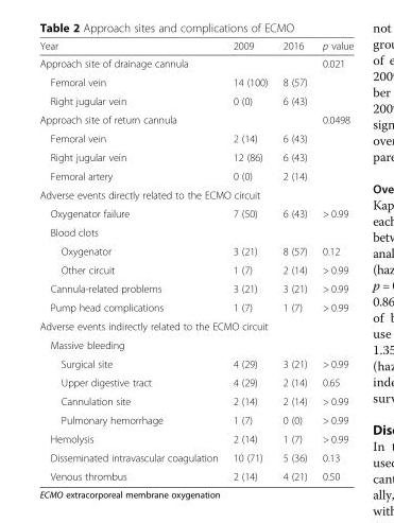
<table><thead><tr><td>Year</td><td>2009</td><td>2016</td><td>p value</td></tr></thead><tbody><tr><td>Approach site of drainage cannula</td><td></td><td></td><td>0.021</td></tr><tr><td>Femoral vein</td><td>14 (100)</td><td>8 (57)</td><td></td></tr><tr><td>Right jugular vein</td><td>0 (0)</td><td>6 (43)</td><td></td></tr><tr><td>Approach site of return cannula</td><td></td><td></td><td>0.0498</td></tr><tr><td>Femoral vein</td><td>2 (14)</td><td>6 (43)</td><td></td></tr><tr><td>Right jugular vein</td><td>12 (86)</td><td>6 (43)</td><td></td></tr><tr><td>Femoral artery</td><td>0 (0)</td><td>2 (14)</td><td></td></tr><tr><td colspan="4">Adverse events directly related to the ECMO circuit</td></tr><tr><td>Oxygenator failure</td><td>7 (50)</td><td>6 (43)</td><td>&gt; 0.99</td></tr><tr><td colspan="4">Blood clots</td></tr><tr><td>Oxygenator</td><td>3 (21)</td><td>8 (57)</td><td>0.12</td></tr><tr><td>Other circuit</td><td>1 (7)</td><td>2 (14)</td><td>&gt; 0.99</td></tr><tr><td>Cannula-related problems</td><td>3 (21)</td><td>3 (21)</td><td>&gt; 0.99</td></tr><tr><td>Pump head complications</td><td>1 (7)</td><td>1 (7)</td><td>&gt; 0.99</td></tr><tr><td colspan="4">Adverse events indirectly related to the ECMO circuit</td></tr><tr><td colspan="4">Massive bleeding</td></tr><tr><td>Surgical site</td><td>4 (29)</td><td>3 (21)</td><td>&gt; 0.99</td></tr><tr><td>Upper digestive tract</td><td>4 (29)</td><td>2 (14)</td><td>0.65</td></tr><tr><td>Cannulation site</td><td>2 (14)</td><td>2 (14)</td><td>&gt; 0.99</td></tr><tr><td>Pulmonary hemorrhage</td><td>1 (7)</td><td>0 (0)</td><td>&gt; 0.99</td></tr><tr><td>Hemolysis</td><td>2 (14)</td><td>1 (7)</td><td>&gt; 0.99</td></tr><tr><td>Disseminated intravascular coagulation</td><td>10 (71)</td><td>5 (36)</td><td>0.13</td></tr><tr><td>Venous thrombus</td><td>2 (14)</td><td>4 (21)</td><td>0.50</td></tr></tbody></table>